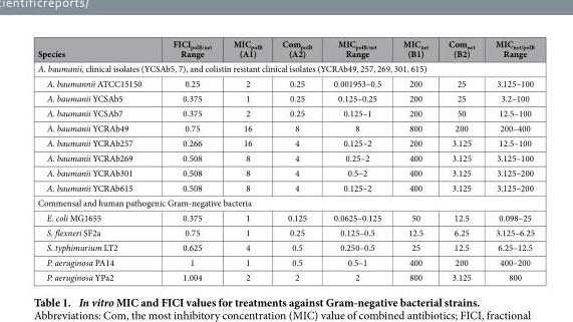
<table><thead><tr><td>Species</td><td>FICI<sub>polB/net</sub> Range</td><td>MIC<sub>polB</sub> (A1)</td><td>Com<sub>polB</sub> (A2)</td><td>MIC<sub>polB/net</sub> Range</td><td>MIC<sub>net</sub> (B1)</td><td>Com<sub>net</sub> (B2)</td><td>MIC<sub>net/polB</sub> Range</td></tr></thead><tbody><tr><td colspan="8">A. baumanii, clinical isolates (YCSAb5, 7), and colistin resitant clinical isolates (YCRAb49, 257, 269, 301, 615)</td></tr><tr><td>A. baumannii ATCC15150</td><td>0.25</td><td>2</td><td>0.25</td><td>0.001953–0.5</td><td>200</td><td>25</td><td>3.125–100</td></tr><tr><td>A. baumanii YCSAb5</td><td>0.375</td><td>1</td><td>0.25</td><td>0.125–0.25</td><td>200</td><td>25</td><td>3.2–100</td></tr><tr><td>A. baumanii YCSAb7</td><td>0.375</td><td>2</td><td>0.25</td><td>0.125–1</td><td>200</td><td>50</td><td>12.5–100</td></tr><tr><td>A. baumanii YCRAb49</td><td>0.75</td><td>16</td><td>8</td><td>8</td><td>800</td><td>200</td><td>200–400</td></tr><tr><td>A. baumanii YCRAb257</td><td>0.266</td><td>16</td><td>4</td><td>0.125–2</td><td>200</td><td>3.125</td><td>12.5–100</td></tr><tr><td>A. baumanii YCRAb269</td><td>0.508</td><td>8</td><td>4</td><td>0.25–2</td><td>400</td><td>3.125</td><td>3.125–100</td></tr><tr><td>A. baumanii YCRAb301</td><td>0.508</td><td>8</td><td>4</td><td>0.5–2</td><td>400</td><td>3.125</td><td>3.125–200</td></tr><tr><td>A. baumanii YCRAb615</td><td>0.508</td><td>8</td><td>4</td><td>0.125–2</td><td>400</td><td>3.125</td><td>3.125–200</td></tr><tr><td colspan="8">Commensal and human pathogenic Gram-negative bacteria</td></tr><tr><td>E. coli MG1655</td><td>0.375</td><td>1</td><td>0.125</td><td>0.0625–0.125</td><td>50</td><td>12.5</td><td>0.098–25</td></tr><tr><td>S. flexneri SF2a</td><td>0.75</td><td>1</td><td>0.25</td><td>0.125–0.5</td><td>12.5</td><td>6.25</td><td>3.125–6.25</td></tr><tr><td>S. typhimurium LT2</td><td>0.625</td><td>4</td><td>0.5</td><td>0.250–0.5</td><td>25</td><td>12.5</td><td>6.25–12.5</td></tr><tr><td>P. aeruginosa PA14</td><td>1</td><td>1</td><td>0.5</td><td>0.5–1</td><td>400</td><td>200</td><td>400–200</td></tr><tr><td>P. aeruginosa YPa2</td><td>1.004</td><td>2</td><td>2</td><td>2</td><td>800</td><td>3.125</td><td>800</td></tr></tbody></table>